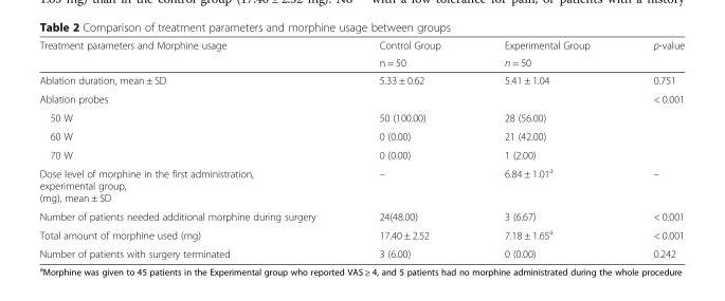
<table><thead><tr><td rowspan="2">Treatment parameters and Morphine usage</td><td rowspan="2">Control Group n = 50</td><td rowspan="2">Experimental Group n = 50</td><td rowspan="2">p-value</td></tr><tr></tr></thead><tbody><tr><td>Ablation duration, mean ± SD</td><td>5.33 ± 0.62</td><td>5.41 ± 1.04</td><td>0.751</td></tr><tr><td>Ablation probes</td><td></td><td></td><td>&lt; 0.001</td></tr><tr><td>50 W</td><td>50 (100.00)</td><td>28 (56.00)</td><td></td></tr><tr><td>60 W</td><td>0 (0.00)</td><td>21 (42.00)</td><td></td></tr><tr><td>70 W</td><td>0 (0.00)</td><td>1 (2.00)</td><td></td></tr><tr><td>Dose level of morphine in the first administration, experimental group, (mg), mean ± SD</td><td>–</td><td>6.84 ± 1.01<sup>a</sup></td><td>–</td></tr><tr><td>Number of patients needed additional morphine during surgery</td><td>24(48.00)</td><td>3 (6.67)</td><td>&lt; 0.001</td></tr><tr><td>Total amount of morphine used (mg)</td><td>17.40 ± 2.52</td><td>7.18 ± 1.65<sup>a</sup></td><td>&lt; 0.001</td></tr><tr><td>Number of patients with surgery terminated</td><td>3 (6.00)</td><td>0 (0.00)</td><td>0.242</td></tr></tbody></table>